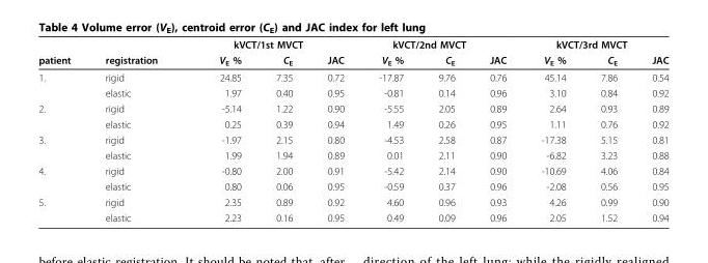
<table><thead><tr><td rowspan="2">patient</td><td rowspan="2">registration</td><td colspan="3">kVCT/1st MVCT</td><td colspan="3">kVCT/2nd MVCT</td><td colspan="3">kVCT/3rd MVCT</td></tr><tr><td>V<sub>E</sub> %</td><td>C<sub>E</sub></td><td>JAC</td><td>V<sub>E</sub> %</td><td>C<sub>E</sub></td><td>JAC</td><td>V<sub>E</sub> %</td><td>C<sub>E</sub></td><td>JAC</td></tr></thead><tbody><tr><td rowspan="2">1.</td><td>rigid</td><td>24.85</td><td>7.35</td><td>0.72</td><td>-17.87</td><td>9.76</td><td>0.76</td><td>45.14</td><td>7.86</td><td>0.54</td></tr><tr><td>elastic</td><td>1.97</td><td>0.40</td><td>0.95</td><td>-0.81</td><td>0.14</td><td>0.96</td><td>3.10</td><td>0.84</td><td>0.92</td></tr><tr><td rowspan="2">2.</td><td>rigid</td><td>-5.14</td><td>1.22</td><td>0.90</td><td>-5.55</td><td>2.05</td><td>0.89</td><td>2.64</td><td>0.93</td><td>0.89</td></tr><tr><td>elastic</td><td>0.25</td><td>0.39</td><td>0.94</td><td>1.49</td><td>0.26</td><td>0.95</td><td>1.11</td><td>0.76</td><td>0.92</td></tr><tr><td rowspan="2">3.</td><td>rigid</td><td>-1.97</td><td>2.15</td><td>0.80</td><td>-4.53</td><td>2.58</td><td>0.87</td><td>-17.38</td><td>5.15</td><td>0.81</td></tr><tr><td>elastic</td><td>1.99</td><td>1.94</td><td>0.89</td><td>0.01</td><td>2.11</td><td>0.90</td><td>-6.82</td><td>3.23</td><td>0.88</td></tr><tr><td rowspan="2">4.</td><td>rigid</td><td>-0.80</td><td>2.00</td><td>0.91</td><td>-5.42</td><td>2.14</td><td>0.90</td><td>-10.69</td><td>4.06</td><td>0.84</td></tr><tr><td>elastic</td><td>0.80</td><td>0.06</td><td>0.95</td><td>-0.59</td><td>0.37</td><td>0.96</td><td>-2.08</td><td>0.56</td><td>0.95</td></tr><tr><td rowspan="2">5.</td><td>rigid</td><td>2.35</td><td>0.89</td><td>0.92</td><td>4.60</td><td>0.96</td><td>0.93</td><td>4.26</td><td>0.99</td><td>0.90</td></tr><tr><td>elastic</td><td>2.23</td><td>0.16</td><td>0.95</td><td>0.49</td><td>0.09</td><td>0.96</td><td>2.05</td><td>1.52</td><td>0.94</td></tr></tbody></table>